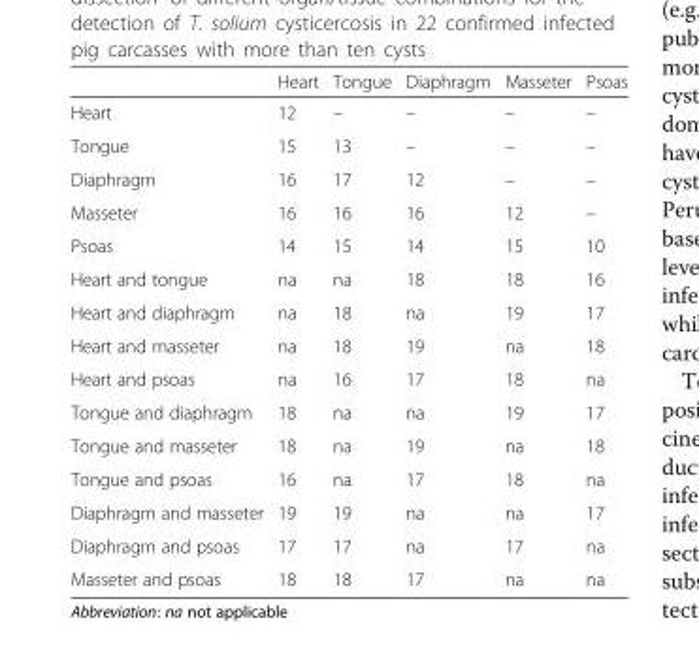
<table><thead><tr><td></td><td>Heart</td><td>Tongue</td><td>Diaphragm</td><td>Masseter</td><td>Psoas</td></tr></thead><tbody><tr><td>Heart</td><td>12</td><td>–</td><td>–</td><td>–</td><td>–</td></tr><tr><td>Tongue</td><td>15</td><td>13</td><td>–</td><td>–</td><td>–</td></tr><tr><td>Diaphragm</td><td>16</td><td>17</td><td>12</td><td>–</td><td>–</td></tr><tr><td>Masseter</td><td>16</td><td>16</td><td>16</td><td>12</td><td>–</td></tr><tr><td>Psoas</td><td>14</td><td>15</td><td>14</td><td>15</td><td>10</td></tr><tr><td>Heart and tongue</td><td>na</td><td>na</td><td>18</td><td>18</td><td>16</td></tr><tr><td>Heart and diaphragm</td><td>na</td><td>18</td><td>na</td><td>19</td><td>17</td></tr><tr><td>Heart and masseter</td><td>na</td><td>18</td><td>19</td><td>na</td><td>18</td></tr><tr><td>Heart and psoas</td><td>na</td><td>16</td><td>17</td><td>18</td><td>na</td></tr><tr><td>Tongue and diaphragm</td><td>18</td><td>na</td><td>na</td><td>19</td><td>17</td></tr><tr><td>Tongue and masseter</td><td>18</td><td>na</td><td>19</td><td>na</td><td>18</td></tr><tr><td>Tongue and psoas</td><td>16</td><td>na</td><td>17</td><td>18</td><td>na</td></tr><tr><td>Diaphragm and masseter</td><td>19</td><td>19</td><td>na</td><td>na</td><td>17</td></tr><tr><td>Diaphragm and psoas</td><td>17</td><td>17</td><td>na</td><td>17</td><td>na</td></tr><tr><td>Masseter and psoas</td><td>18</td><td>18</td><td>17</td><td>na</td><td>na</td></tr></tbody></table>